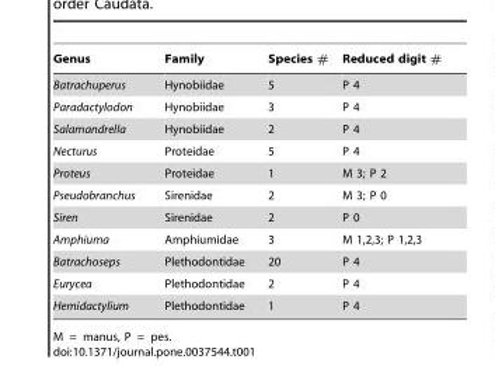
<table><thead><tr><td>Genus</td><td>Family</td><td>Species #</td><td>Reduced digit #</td></tr></thead><tbody><tr><td>Batrachuperus</td><td>Hynobiidae</td><td>5</td><td>P 4</td></tr><tr><td>Paradactylodon</td><td>Hynobiidae</td><td>3</td><td>P 4</td></tr><tr><td>Salamandrella</td><td>Hynobiidae</td><td>2</td><td>P 4</td></tr><tr><td>Necturus</td><td>Proteidae</td><td>5</td><td>P 4</td></tr><tr><td>Proteus</td><td>Proteidae</td><td>1</td><td>M 3; P 2</td></tr><tr><td>Pseudobranchus</td><td>Sirenidae</td><td>2</td><td>M 3; P 0</td></tr><tr><td>Siren</td><td>Sirenidae</td><td>2</td><td>P 0</td></tr><tr><td>Amphiuma</td><td>Amphiumidae</td><td>3</td><td>M 1,2,3; P 1,2,3</td></tr><tr><td>Batrachoseps</td><td>Plethodontidae</td><td>20</td><td>P 4</td></tr><tr><td>Eurycea</td><td>Plethodontidae</td><td>2</td><td>P 4</td></tr><tr><td>Hemidactylium</td><td>Plethodontidae</td><td>1</td><td>P 4</td></tr></tbody></table>